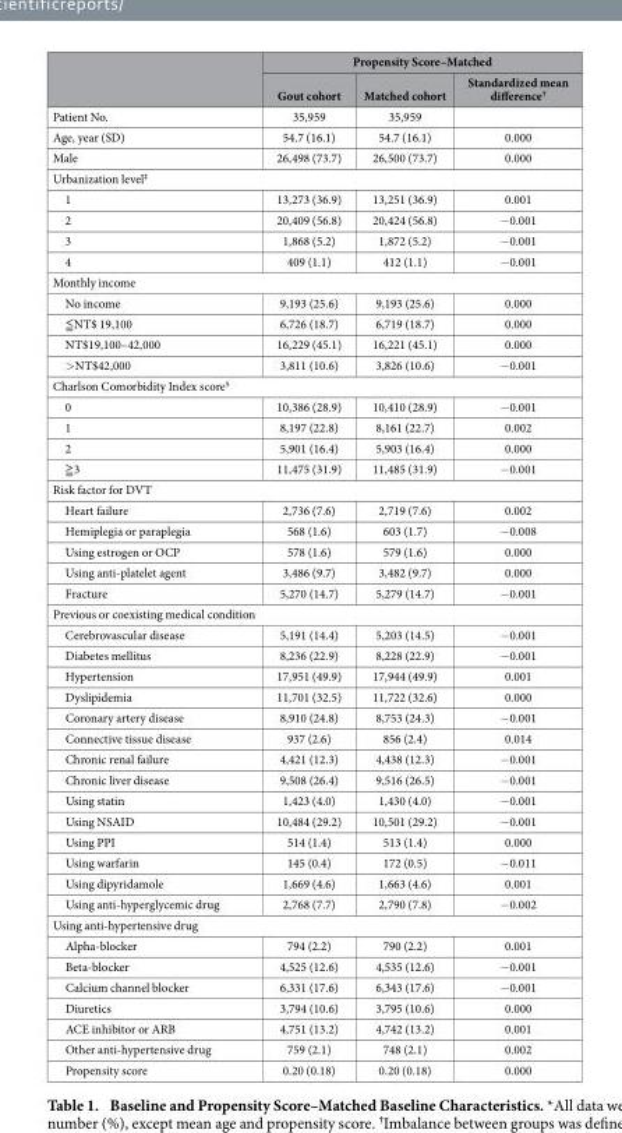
<table><thead><tr><td rowspan="2"></td><td colspan="3">Propensity Score–Matched</td></tr><tr><td>Gout cohort</td><td>Matched cohort</td><td>Standardized mean difference<sup>†</sup></td></tr></thead><tbody><tr><td>Patient No.</td><td>35,959</td><td>35,959</td><td></td></tr><tr><td>Age, year (SD)</td><td>54.7 (16.1)</td><td>54.7 (16.1)</td><td>0.000</td></tr><tr><td>Male</td><td>26,498 (73.7)</td><td>26,500 (73.7)</td><td>0.000</td></tr><tr><td colspan="4">Urbanization level<sup>‡</sup></td></tr><tr><td>1</td><td>13,273 (36.9)</td><td>13,251 (36.9)</td><td>0.001</td></tr><tr><td>2</td><td>20,409 (56.8)</td><td>20,424 (56.8)</td><td>− 0.001</td></tr><tr><td>3</td><td>1,868 (5.2)</td><td>1,872 (5.2)</td><td>− 0.001</td></tr><tr><td>4</td><td>409 (1.1)</td><td>412 (1.1)</td><td>− 0.001</td></tr><tr><td colspan="4">Monthly income</td></tr><tr><td>No income</td><td>9,193 (25.6)</td><td>9,193 (25.6)</td><td>0.000</td></tr><tr><td>≦ NT$ 19,100</td><td>6,726 (18.7)</td><td>6,719 (18.7)</td><td>0.000</td></tr><tr><td>NT$19,100–42,000</td><td>16,229 (45.1)</td><td>16,221 (45.1)</td><td>0.000</td></tr><tr><td>&gt; NT$42,000</td><td>3,811 (10.6)</td><td>3,826 (10.6)</td><td>− 0.001</td></tr><tr><td colspan="4">Charlson Comorbidity Index score<sup>§</sup></td></tr><tr><td>0</td><td>10,386 (28.9)</td><td>10,410 (28.9)</td><td>− 0.001</td></tr><tr><td>1</td><td>8,197 (22.8)</td><td>8,161 (22.7)</td><td>0.002</td></tr><tr><td>2</td><td>5,901 (16.4)</td><td>5,903 (16.4)</td><td>0.000</td></tr><tr><td>≧ 3</td><td>11,475 (31.9)</td><td>11,485 (31.9)</td><td>− 0.001</td></tr><tr><td colspan="4">Risk factor for DVT</td></tr><tr><td>Heart failure</td><td>2,736 (7.6)</td><td>2,719 (7.6)</td><td>0.002</td></tr><tr><td>Hemiplegia or paraplegia</td><td>568 (1.6)</td><td>603 (1.7)</td><td>− 0.008</td></tr><tr><td>Using estrogen or OCP</td><td>578 (1.6)</td><td>579 (1.6)</td><td>0.000</td></tr><tr><td>Using anti-platelet agent</td><td>3,486 (9.7)</td><td>3,482 (9.7)</td><td>0.000</td></tr><tr><td>Fracture</td><td>5,270 (14.7)</td><td>5,279 (14.7)</td><td>− 0.001</td></tr><tr><td colspan="4">Previous or coexisting medical condition</td></tr><tr><td>Cerebrovascular disease</td><td>5,191 (14.4)</td><td>5,203 (14.5)</td><td>− 0.001</td></tr><tr><td>Diabetes mellitus</td><td>8,236 (22.9)</td><td>8,228 (22.9)</td><td>− 0.001</td></tr><tr><td>Hypertension</td><td>17,951 (49.9)</td><td>17,944 (49.9)</td><td>0.001</td></tr><tr><td>Dyslipidemia</td><td>11,701 (32.5)</td><td>11,722 (32.6)</td><td>0.000</td></tr><tr><td>Coronary artery disease</td><td>8,910 (24.8)</td><td>8,753 (24.3)</td><td>− 0.001</td></tr><tr><td>Connective tissue disease</td><td>937 (2.6)</td><td>856 (2.4)</td><td>0.014</td></tr><tr><td>Chronic renal failure</td><td>4,421 (12.3)</td><td>4,438 (12.3)</td><td>− 0.001</td></tr><tr><td>Chronic liver disease</td><td>9,508 (26.4)</td><td>9,516 (26.5)</td><td>− 0.001</td></tr><tr><td>Using statin</td><td>1,423 (4.0)</td><td>1,430 (4.0)</td><td>− 0.001</td></tr><tr><td>Using NSAID</td><td>10,484 (29.2)</td><td>10,501 (29.2)</td><td>− 0.001</td></tr><tr><td>Using PPI</td><td>514 (1.4)</td><td>513 (1.4)</td><td>0.000</td></tr><tr><td>Using warfarin</td><td>145 (0.4)</td><td>172 (0.5)</td><td>− 0.011</td></tr><tr><td>Using dipyridamole</td><td>1,669 (4.6)</td><td>1,663 (4.6)</td><td>0.001</td></tr><tr><td>Using anti-hyperglycemic drug</td><td>2,768 (7.7)</td><td>2,790 (7.8)</td><td>− 0.002</td></tr><tr><td colspan="4">Using anti-hypertensive drug</td></tr><tr><td>Alpha-blocker</td><td>794 (2.2)</td><td>790 (2.2)</td><td>0.001</td></tr><tr><td>Beta-blocker</td><td>4,525 (12.6)</td><td>4,535 (12.6)</td><td>− 0.001</td></tr><tr><td>Calcium channel blocker</td><td>6,331 (17.6)</td><td>6,343 (17.6)</td><td>− 0.001</td></tr><tr><td>Diuretics</td><td>3,794 (10.6)</td><td>3,795 (10.6)</td><td>0.000</td></tr><tr><td>ACE inhibitor or ARB</td><td>4,751 (13.2)</td><td>4,742 (13.2)</td><td>0.001</td></tr><tr><td>Other anti-hypertensive drug</td><td>759 (2.1)</td><td>748 (2.1)</td><td>0.002</td></tr><tr><td>Propensity score</td><td>0.20 (0.18)</td><td>0.20 (0.18)</td><td>0.000</td></tr></tbody></table>